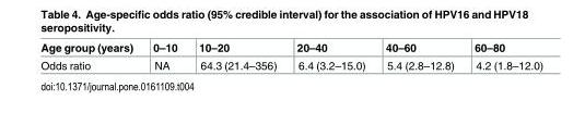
<table><thead><tr><td>Age group (years)</td><td>0–10</td><td>10–20</td><td>20–40</td><td>40–60</td><td>60–80</td></tr></thead><tbody><tr><td>Odds ratio</td><td>NA</td><td>64.3 (21.4–356)</td><td>6.4 (3.2–15.0)</td><td>5.4 (2.8–12.8)</td><td>4.2 (1.8–12.0)</td></tr></tbody></table>